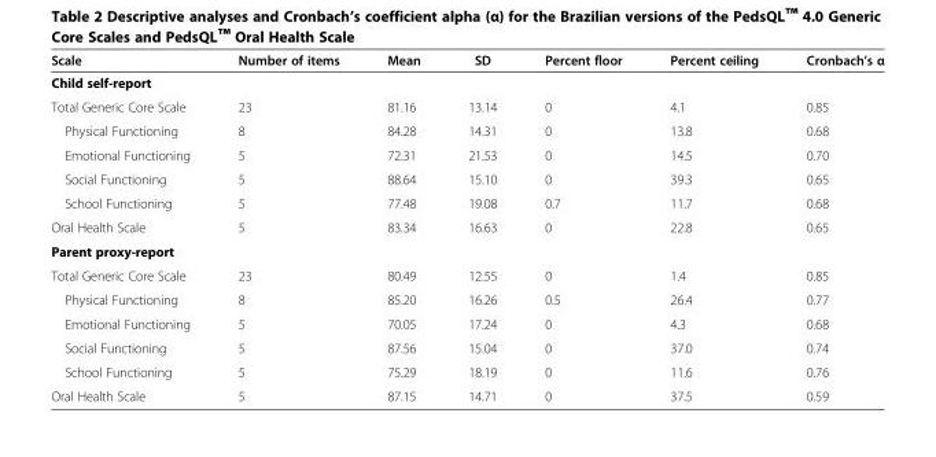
<table><thead><tr><td>Scale</td><td>Number of items</td><td>Mean</td><td>SD</td><td>Percent floor</td><td>Percent ceiling</td><td>Cronbach’s α</td></tr></thead><tbody><tr><td colspan="7">Child self-report</td></tr><tr><td>Total Generic Core Scale</td><td>23</td><td>81.16</td><td>13.14</td><td>0</td><td>4.1</td><td>0.85</td></tr><tr><td>Physical Functioning</td><td>8</td><td>84.28</td><td>14.31</td><td>0</td><td>13.8</td><td>0.68</td></tr><tr><td>Emotional Functioning</td><td>5</td><td>72.31</td><td>21.53</td><td>0</td><td>14.5</td><td>0.70</td></tr><tr><td>Social Functioning</td><td>5</td><td>88.64</td><td>15.10</td><td>0</td><td>39.3</td><td>0.65</td></tr><tr><td>School Functioning</td><td>5</td><td>77.48</td><td>19.08</td><td>0.7</td><td>11.7</td><td>0.68</td></tr><tr><td>Oral Health Scale</td><td>5</td><td>83.34</td><td>16.63</td><td>0</td><td>22.8</td><td>0.65</td></tr><tr><td colspan="7">Parent proxy-report</td></tr><tr><td>Total Generic Core Scale</td><td>23</td><td>80.49</td><td>12.55</td><td>0</td><td>1.4</td><td>0.85</td></tr><tr><td>Physical Functioning</td><td>8</td><td>85.20</td><td>16.26</td><td>0.5</td><td>26.4</td><td>0.77</td></tr><tr><td>Emotional Functioning</td><td>5</td><td>70.05</td><td>17.24</td><td>0</td><td>4.3</td><td>0.68</td></tr><tr><td>Social Functioning</td><td>5</td><td>87.56</td><td>15.04</td><td>0</td><td>37.0</td><td>0.74</td></tr><tr><td>School Functioning</td><td>5</td><td>75.29</td><td>18.19</td><td>0</td><td>11.6</td><td>0.76</td></tr><tr><td>Oral Health Scale</td><td>5</td><td>87.15</td><td>14.71</td><td>0</td><td>37.5</td><td>0.59</td></tr></tbody></table>